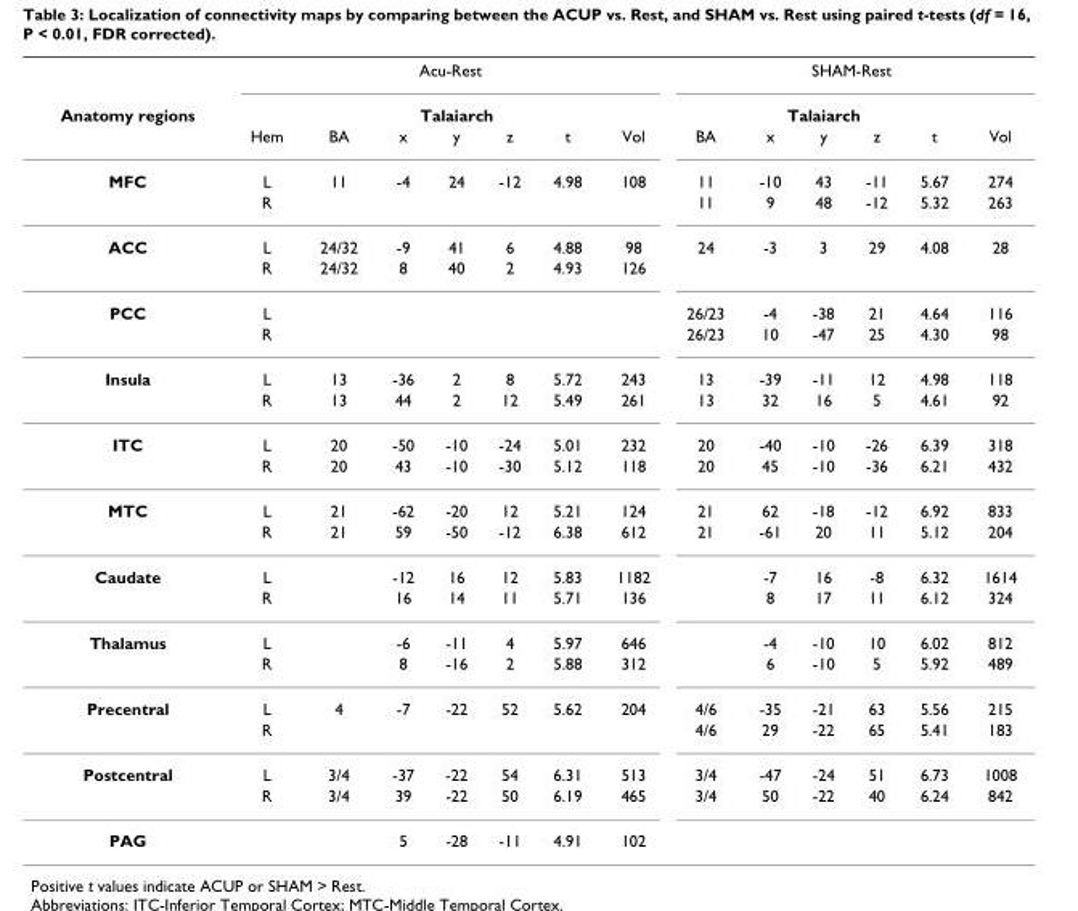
<table><thead><tr><td rowspan="3">Anatomy regions</td><td colspan="7">Acu-Rest</td><td colspan="6">SHAM-Rest</td></tr><tr><td rowspan="2">Hem</td><td rowspan="2">BA</td><td colspan="3">Talaiarch</td><td rowspan="2">t</td><td rowspan="2">Vol</td><td rowspan="2">BA</td><td colspan="3">Talaiarch</td><td rowspan="2">t</td><td rowspan="2">Vol</td></tr><tr><td>x</td><td>y</td><td>z</td><td>x</td><td>y</td><td>z</td></tr></thead><tbody><tr><td rowspan="2">MFC</td><td>L</td><td>11</td><td>-4</td><td>24</td><td>-12</td><td>4.98</td><td>108</td><td>11</td><td>-10</td><td>43</td><td>-11</td><td>5.67</td><td>274</td></tr><tr><td>R</td><td></td><td></td><td></td><td></td><td></td><td></td><td>11</td><td>9</td><td>48</td><td>-12</td><td>5.32</td><td>263</td></tr><tr><td rowspan="2">ACC</td><td>L</td><td>24/32</td><td>-9</td><td>41</td><td>6</td><td>4.88</td><td>98</td><td>24</td><td>-3</td><td>3</td><td>29</td><td>4.08</td><td>28</td></tr><tr><td>R</td><td>24/32</td><td>8</td><td>40</td><td>2</td><td>4.93</td><td>126</td><td></td><td></td><td></td><td></td><td></td><td></td></tr><tr><td rowspan="2">PCC</td><td>L</td><td></td><td></td><td></td><td></td><td></td><td></td><td>26/23</td><td>-4</td><td>-38</td><td>21</td><td>4.64</td><td>116</td></tr><tr><td>R</td><td></td><td></td><td></td><td></td><td></td><td></td><td>26/23</td><td>10</td><td>-47</td><td>25</td><td>4.30</td><td>98</td></tr><tr><td rowspan="2">Insula</td><td>L</td><td>13</td><td>-36</td><td>2</td><td>8</td><td>5.72</td><td>243</td><td>13</td><td>-39</td><td>-11</td><td>12</td><td>4.98</td><td>118</td></tr><tr><td>R</td><td>13</td><td>44</td><td>2</td><td>12</td><td>5.49</td><td>261</td><td>13</td><td>32</td><td>16</td><td>5</td><td>4.61</td><td>92</td></tr><tr><td rowspan="2">ITC</td><td>L</td><td>20</td><td>-50</td><td>-10</td><td>-24</td><td>5.01</td><td>232</td><td>20</td><td>-40</td><td>-10</td><td>-26</td><td>6.39</td><td>318</td></tr><tr><td>R</td><td>20</td><td>43</td><td>-10</td><td>-30</td><td>5.12</td><td>118</td><td>20</td><td>45</td><td>-10</td><td>-36</td><td>6.21</td><td>432</td></tr><tr><td rowspan="2">MTC</td><td>L</td><td>21</td><td>-62</td><td>-20</td><td>12</td><td>5.21</td><td>124</td><td>21</td><td>62</td><td>-18</td><td>-12</td><td>6.92</td><td>833</td></tr><tr><td>R</td><td>21</td><td>59</td><td>-50</td><td>-12</td><td>6.38</td><td>612</td><td>21</td><td>-61</td><td>20</td><td>11</td><td>5.12</td><td>204</td></tr><tr><td rowspan="2">Caudate</td><td>L</td><td></td><td>-12</td><td>16</td><td>12</td><td>5.83</td><td>1182</td><td></td><td>-7</td><td>16</td><td>-8</td><td>6.32</td><td>1614</td></tr><tr><td>R</td><td></td><td>16</td><td>14</td><td>11</td><td>5.71</td><td>136</td><td></td><td>8</td><td>17</td><td>11</td><td>6.12</td><td>324</td></tr><tr><td rowspan="2">Thalamus</td><td>L</td><td></td><td>-6</td><td>-11</td><td>4</td><td>5.97</td><td>646</td><td></td><td>-4</td><td>-10</td><td>10</td><td>6.02</td><td>812</td></tr><tr><td>R</td><td></td><td>8</td><td>-16</td><td>2</td><td>5.88</td><td>312</td><td></td><td>6</td><td>-10</td><td>5</td><td>5.92</td><td>489</td></tr><tr><td rowspan="2">Precentral</td><td>L</td><td>4</td><td>-7</td><td>-22</td><td>52</td><td>5.62</td><td>204</td><td>4/6</td><td>-35</td><td>-21</td><td>63</td><td>5.56</td><td>215</td></tr><tr><td>R</td><td></td><td></td><td></td><td></td><td></td><td></td><td>4/6</td><td>29</td><td>-22</td><td>65</td><td>5.41</td><td>183</td></tr><tr><td rowspan="2">Postcentral</td><td>L</td><td>3/4</td><td>-37</td><td>-22</td><td>54</td><td>6.31</td><td>513</td><td>3/4</td><td>-47</td><td>-24</td><td>51</td><td>6.73</td><td>1008</td></tr><tr><td>R</td><td>3/4</td><td>39</td><td>-22</td><td>50</td><td>6.19</td><td>465</td><td>3/4</td><td>50</td><td>-22</td><td>40</td><td>6.24</td><td>842</td></tr><tr><td>PAG</td><td></td><td></td><td>5</td><td>-28</td><td>-11</td><td>4.91</td><td>102</td><td></td><td></td><td></td><td></td><td></td><td></td></tr></tbody></table>